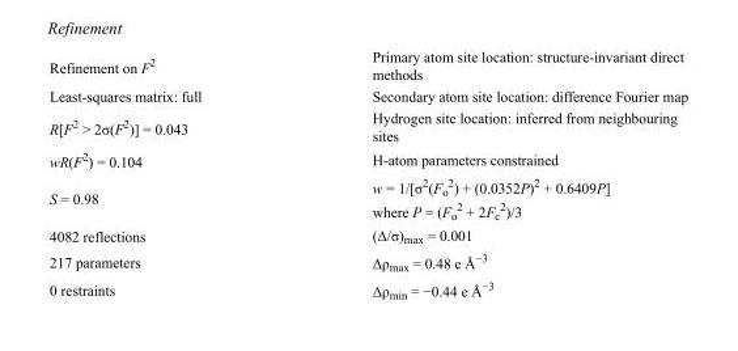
<table><tbody><tr><td>Refinement on F<sup>2</sup></td><td>Primary atom site location: structure-invariant direct methods</td></tr><tr><td>Least-squares matrix: full</td><td>Secondary atom site location: difference Fourier map</td></tr><tr><td>R[F<sup>2</sup> &gt; 2σ(F<sup>2</sup>)] = 0.043</td><td>Hydrogen site location: inferred from neighbouring sites</td></tr><tr><td>wR(F<sup>2</sup>) = 0.104</td><td>H-atom parameters constrained</td></tr><tr><td>S = 0.98</td><td>w = 1/[σ<sup>2</sup>(F<sub>o</sub> <sup>2</sup>) + (0.0352P)<sup>2</sup> + 0.6409P] where P = (F<sub>o</sub> <sup>2</sup> + 2F<sub>c</sub> <sup>2</sup>)/3</td></tr><tr><td>4082 reflections</td><td>(Δ/σ)<sub>max</sub> = 0.001</td></tr><tr><td>217 parameters</td><td>Δρ<sub>max</sub> = 0.48 e Å<sup>−3</sup></td></tr><tr><td>0 restraints</td><td>Δρ<sub>min</sub> = −0.44 e Å<sup>−3</sup></td></tr></tbody></table>